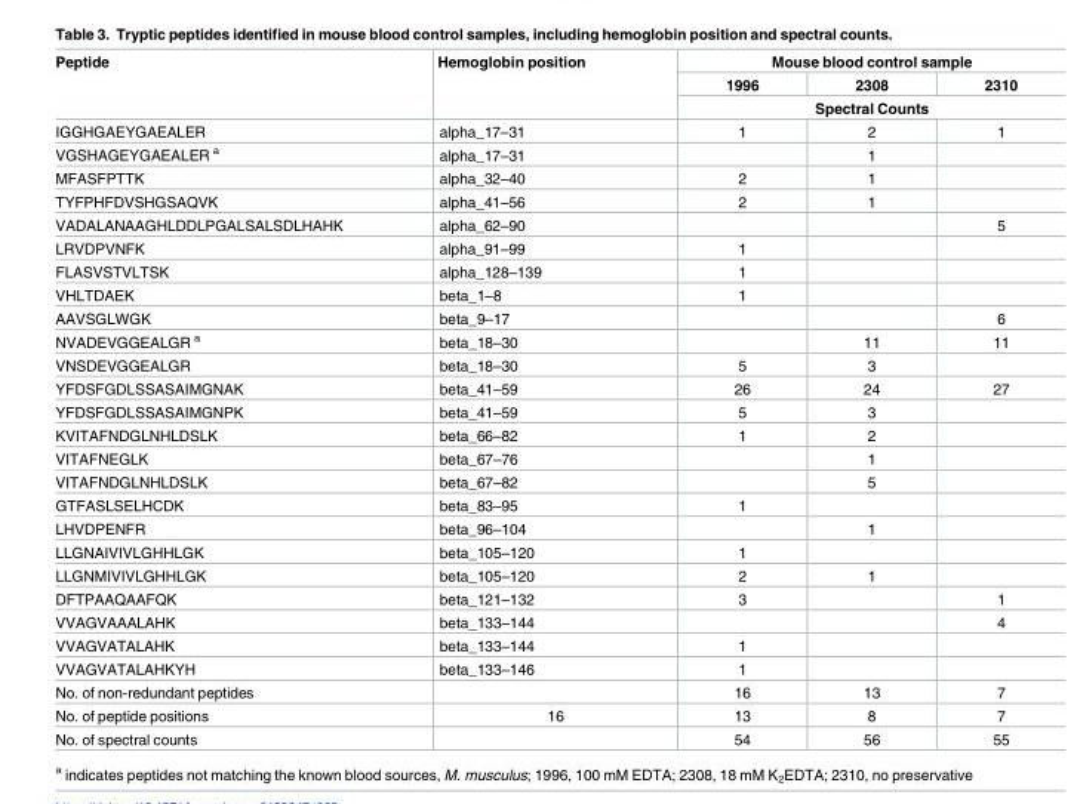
<table><thead><tr><td rowspan="3">Peptide</td><td rowspan="3">Hemoglobin position</td><td colspan="3">Mouse blood control sample</td></tr><tr><td>1996</td><td>2308</td><td>2310</td></tr><tr><td colspan="3">Spectral Counts</td></tr></thead><tbody><tr><td>IGGHGAEYGAEALER</td><td>alpha_17–31</td><td>1</td><td>2</td><td>1</td></tr><tr><td>VGSHAGEYGAEALER <sup>a</sup></td><td>alpha_17–31</td><td></td><td>1</td><td></td></tr><tr><td>MFASFPTTK</td><td>alpha_32–40</td><td>2</td><td>1</td><td></td></tr><tr><td>TYFPHFDVSHGSAQVK</td><td>alpha_41–56</td><td>2</td><td>1</td><td></td></tr><tr><td>VADALANAAGHLDDLPGALSALSDLHAHK</td><td>alpha_62–90</td><td></td><td></td><td>5</td></tr><tr><td>LRVDPVNFK</td><td>alpha_91–99</td><td>1</td><td></td><td></td></tr><tr><td>FLASVSTVLTSK</td><td>alpha_128–139</td><td>1</td><td></td><td></td></tr><tr><td>VHLTDAEK</td><td>beta_1–8</td><td>1</td><td></td><td></td></tr><tr><td>AAVSGLWGK</td><td>beta_9–17</td><td></td><td></td><td>6</td></tr><tr><td>NVADEVGGEALGR <sup>a</sup></td><td>beta_18–30</td><td></td><td>11</td><td>11</td></tr><tr><td>VNSDEVGGEALGR</td><td>beta_18–30</td><td>5</td><td>3</td><td></td></tr><tr><td>YFDSFGDLSSASAIMGNAK</td><td>beta_41–59</td><td>26</td><td>24</td><td>27</td></tr><tr><td>YFDSFGDLSSASAIMGNPK</td><td>beta_41–59</td><td>5</td><td>3</td><td></td></tr><tr><td>KVITAFNDGLNHLDSLK</td><td>beta_66–82</td><td>1</td><td>2</td><td></td></tr><tr><td>VITAFNEGLK</td><td>beta_67–76</td><td></td><td>1</td><td></td></tr><tr><td>VITAFNDGLNHLDSLK</td><td>beta_67–82</td><td></td><td>5</td><td></td></tr><tr><td>GTFASLSELHCDK</td><td>beta_83–95</td><td>1</td><td></td><td></td></tr><tr><td>LHVDPENFR</td><td>beta_96–104</td><td></td><td>1</td><td></td></tr><tr><td>LLGNAIVIVLGHHLGK</td><td>beta_105–120</td><td>1</td><td></td><td></td></tr><tr><td>LLGNMIVIVLGHHLGK</td><td>beta_105–120</td><td>2</td><td>1</td><td></td></tr><tr><td>DFTPAAQAAFQK</td><td>beta_121–132</td><td>3</td><td></td><td>1</td></tr><tr><td>VVAGVAAALAHK</td><td>beta_133–144</td><td></td><td></td><td>4</td></tr><tr><td>VVAGVATALAHK</td><td>beta_133–144</td><td>1</td><td></td><td></td></tr><tr><td>VVAGVATALAHKYH</td><td>beta_133–146</td><td>1</td><td></td><td></td></tr><tr><td>No. of non-redundant peptides</td><td></td><td>16</td><td>13</td><td>7</td></tr><tr><td>No. of peptide positions</td><td>16</td><td>13</td><td>8</td><td>7</td></tr><tr><td>No. of spectral counts</td><td></td><td>54</td><td>56</td><td>55</td></tr></tbody></table>